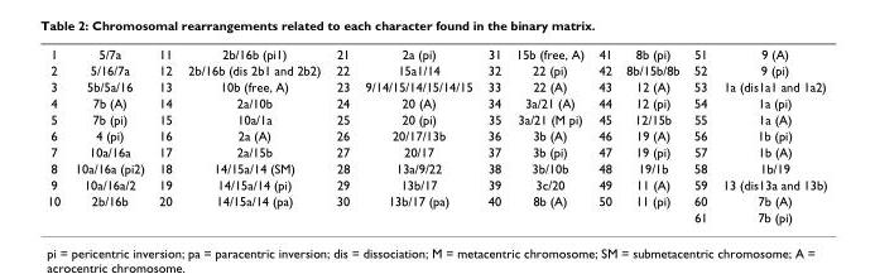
<table><tbody><tr><td>1</td><td>5/7a</td><td>11</td><td>2b/16b (pi1)</td><td>21</td><td>2a (pi)</td><td>31</td><td>15b (free, A)</td><td>41</td><td>8b (pi)</td><td>51</td><td>9 (A)</td></tr><tr><td>2</td><td>5/16/7a</td><td>12</td><td>2b/16b (dis 2b1 and 2b2)</td><td>22</td><td>15a1/14</td><td>32</td><td>22 (pi)</td><td>42</td><td>8b/15b/8b</td><td>52</td><td>9 (pi)</td></tr><tr><td>3</td><td>5b/5a/16</td><td>13</td><td>10b (free, A)</td><td>23</td><td>9/14/15/14/15/14/15</td><td>33</td><td>22 (A)</td><td>43</td><td>12 (A)</td><td>53</td><td>1a (dis1a1 and 1a2)</td></tr><tr><td>4</td><td>7b (A)</td><td>14</td><td>2a/10b</td><td>24</td><td>20 (A)</td><td>34</td><td>3a/21 (A)</td><td>44</td><td>12 (pi)</td><td>54</td><td>1a (pi)</td></tr><tr><td>5</td><td>7b (pi)</td><td>15</td><td>10a/1a</td><td>25</td><td>20 (pi)</td><td>35</td><td>3a/21 (M pi)</td><td>45</td><td>12/15b</td><td>55</td><td>1a (A)</td></tr><tr><td>6</td><td>4 (pi)</td><td>16</td><td>2a (A)</td><td>26</td><td>20/17/13b</td><td>36</td><td>3b (A)</td><td>46</td><td>19 (A)</td><td>56</td><td>1b (pi)</td></tr><tr><td>7</td><td>10a/16a</td><td>17</td><td>2a/15b</td><td>27</td><td>20/17</td><td>37</td><td>3b (pi)</td><td>47</td><td>19 (pi)</td><td>57</td><td>1b (A)</td></tr><tr><td>8</td><td>10a/16a (pi2)</td><td>18</td><td>14/15a/14 (SM)</td><td>28</td><td>13a/9/22</td><td>38</td><td>3b/10b</td><td>48</td><td>19/1b</td><td>58</td><td>1b/19</td></tr><tr><td>9</td><td>10a/16a/2</td><td>19</td><td>14/15a/14 (pi)</td><td>29</td><td>13b/17</td><td>39</td><td>3c/20</td><td>49</td><td>11 (A)</td><td>59</td><td>13 (dis13a and 13b)</td></tr><tr><td rowspan="2">10</td><td>2b/16b</td><td>20</td><td>14/15a/14 (pa)</td><td>30</td><td>13b/17 (pa)</td><td>40</td><td>8b (A)</td><td>50</td><td>11 (pi)</td><td>60</td><td>7b (A)</td></tr><tr><td></td><td></td><td></td><td></td><td></td><td></td><td></td><td></td><td></td><td>61</td><td>7b (pi)</td></tr></tbody></table>